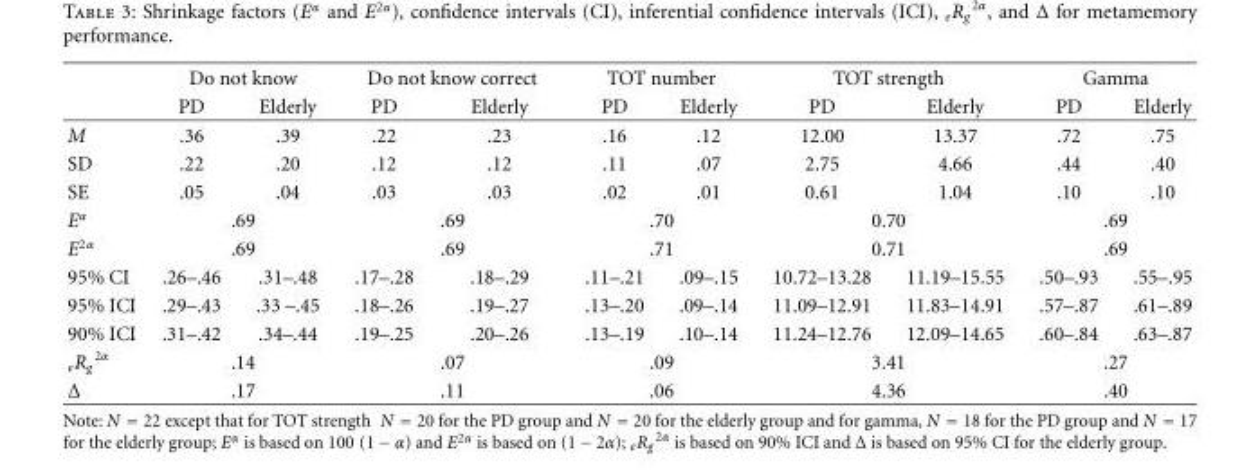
<table><thead><tr><td rowspan="2"></td><td colspan="2">Do not know</td><td colspan="2">Do not know correct</td><td colspan="2">TOT number</td><td colspan="2">TOT strength</td><td colspan="2">Gamma</td></tr><tr><td>PD</td><td>Elderly</td><td>PD</td><td>Elderly</td><td>PD</td><td>Elderly</td><td>PD</td><td>Elderly</td><td>PD</td><td>Elderly</td></tr></thead><tbody><tr><td>M</td><td>.36</td><td>.39</td><td>.22</td><td>.23</td><td>.16</td><td>.12</td><td>12.00</td><td>13.37</td><td>.72</td><td>.75</td></tr><tr><td>SD</td><td>.22</td><td>.20</td><td>.12</td><td>.12</td><td>.11</td><td>.07</td><td>2.75</td><td>4.66</td><td>.44</td><td>.40</td></tr><tr><td>SE</td><td>.05</td><td>.04</td><td>.03</td><td>.03</td><td>.02</td><td>.01</td><td>0.61</td><td>1.04</td><td>.10</td><td>.10</td></tr><tr><td>E<sup>α</sup></td><td colspan="2">.69</td><td colspan="2">.69</td><td colspan="2">.70</td><td colspan="2">0.70</td><td colspan="2">.69</td></tr><tr><td>E<sup>2α</sup></td><td colspan="2">.69</td><td colspan="2">.69</td><td colspan="2">.71</td><td colspan="2">0.71</td><td colspan="2">.69</td></tr><tr><td>95% CI</td><td>.26–.46</td><td>.31–.48</td><td>.17–.28</td><td>.18–.29</td><td>.11–.21</td><td>.09–.15</td><td>10.72–13.28</td><td>11.19–15.55</td><td>.50–.93</td><td>.55–.95</td></tr><tr><td>95% ICI</td><td>.29–.43</td><td>.33 –.45</td><td>.18–.26</td><td>.19–.27</td><td>.13–.20</td><td>.09–.14</td><td>11.09–12.91</td><td>11.83–14.91</td><td>.57–.87</td><td>.61–.89</td></tr><tr><td>90% ICI</td><td>.31–.42</td><td>.34–.44</td><td>.19–.25</td><td>.20–.26</td><td>.13–.19</td><td>.10–.14</td><td>11.24–12.76</td><td>12.09–14.65</td><td>.60–.84</td><td>.63–.87</td></tr><tr><td><sub>e</sub>R<sub>g</sub> <sup>2α</sup></td><td colspan="2">.14</td><td colspan="2">.07</td><td colspan="2">.09</td><td colspan="2">3.41</td><td colspan="2">.27</td></tr><tr><td>Δ</td><td colspan="2">.17</td><td colspan="2">.11</td><td colspan="2">.06</td><td colspan="2">4.36</td><td colspan="2">.40</td></tr></tbody></table>